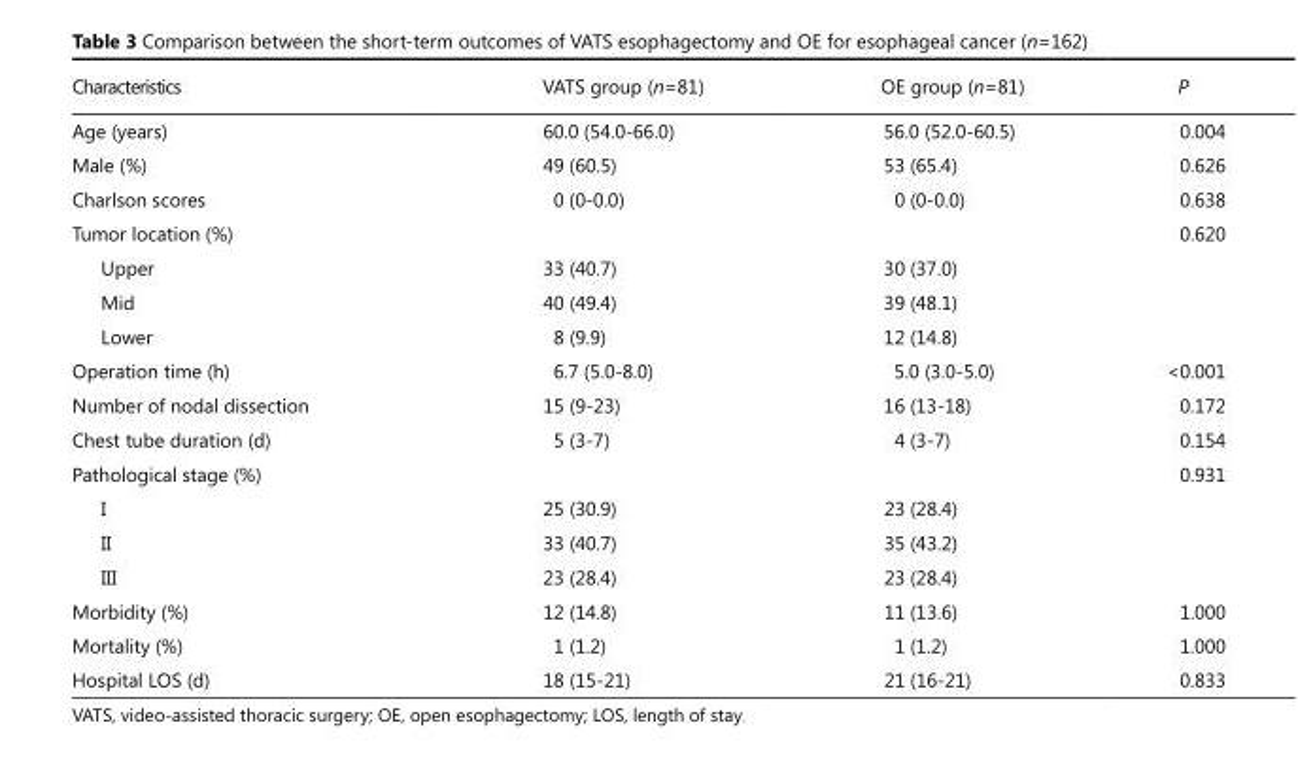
<table><thead><tr><td>Characteristics</td><td>VATS group (n=81)</td><td>Oe group (n=81)</td><td>P</td></tr></thead><tbody><tr><td>Age (years)</td><td>60.0 (54.0-66.0)</td><td>56.0 (52.0-60.5)</td><td>0.004</td></tr><tr><td>Male (%)</td><td>49 (60.5)</td><td>53 (65.4)</td><td>0.626</td></tr><tr><td>Charlson scores</td><td>0 (0-0.0)</td><td>0 (0-0.0)</td><td>0.638</td></tr><tr><td>Tumor location (%)</td><td></td><td></td><td>0.620</td></tr><tr><td>Upper</td><td>33 (40.7)</td><td>30 (37.0)</td><td></td></tr><tr><td>Mid</td><td>40 (49.4)</td><td>39 (48.1)</td><td></td></tr><tr><td>Lower</td><td>8 (9.9)</td><td>12 (14.8)</td><td></td></tr><tr><td>Operation time (h)</td><td>6.7 (5.0-8.0)</td><td>5.0 (3.0-5.0)</td><td>&lt;0.001</td></tr><tr><td>Number of nodal dissection</td><td>15 (9-23)</td><td>16 (13-18)</td><td>0.172</td></tr><tr><td>Chest tube duration (d)</td><td>5 (3-7)</td><td>4 (3-7)</td><td>0.154</td></tr><tr><td>Pathological stage (%)</td><td></td><td></td><td>0.931</td></tr><tr><td>I</td><td>25 (30.9)</td><td>23 (28.4)</td><td></td></tr><tr><td>II</td><td>33 (40.7)</td><td>35 (43.2)</td><td></td></tr><tr><td>III</td><td>23 (28.4)</td><td>23 (28.4)</td><td></td></tr><tr><td>Morbidity (%)</td><td>12 (14.8)</td><td>11 (13.6)</td><td>1.000</td></tr><tr><td>Mortality (%)</td><td>1 (1.2)</td><td>1 (1.2)</td><td>1.000</td></tr><tr><td>Hospital LOS (d)</td><td>18 (15-21)</td><td>21 (16-21)</td><td>0.833</td></tr></tbody></table>